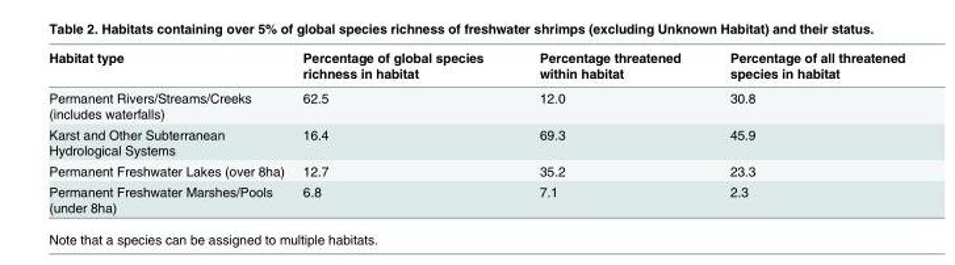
<table><thead><tr><td>Habitat type</td><td>Percentage of global species richness in habitat</td><td>Percentage threatened within habitat</td><td>Percentage of all threatened species in habitat</td></tr></thead><tbody><tr><td>Permanent Rivers/Streams/Creeks (includes waterfalls)</td><td>62.5</td><td>12.0</td><td>30.8</td></tr><tr><td>Karst and Other Subterranean Hydrological Systems</td><td>16.4</td><td>69.3</td><td>45.9</td></tr><tr><td>Permanent Freshwater Lakes (over 8ha)</td><td>12.7</td><td>35.2</td><td>23.3</td></tr><tr><td>Permanent Freshwater Marshes/Pools (under 8ha)</td><td>6.8</td><td>7.1</td><td>2.3</td></tr></tbody></table>